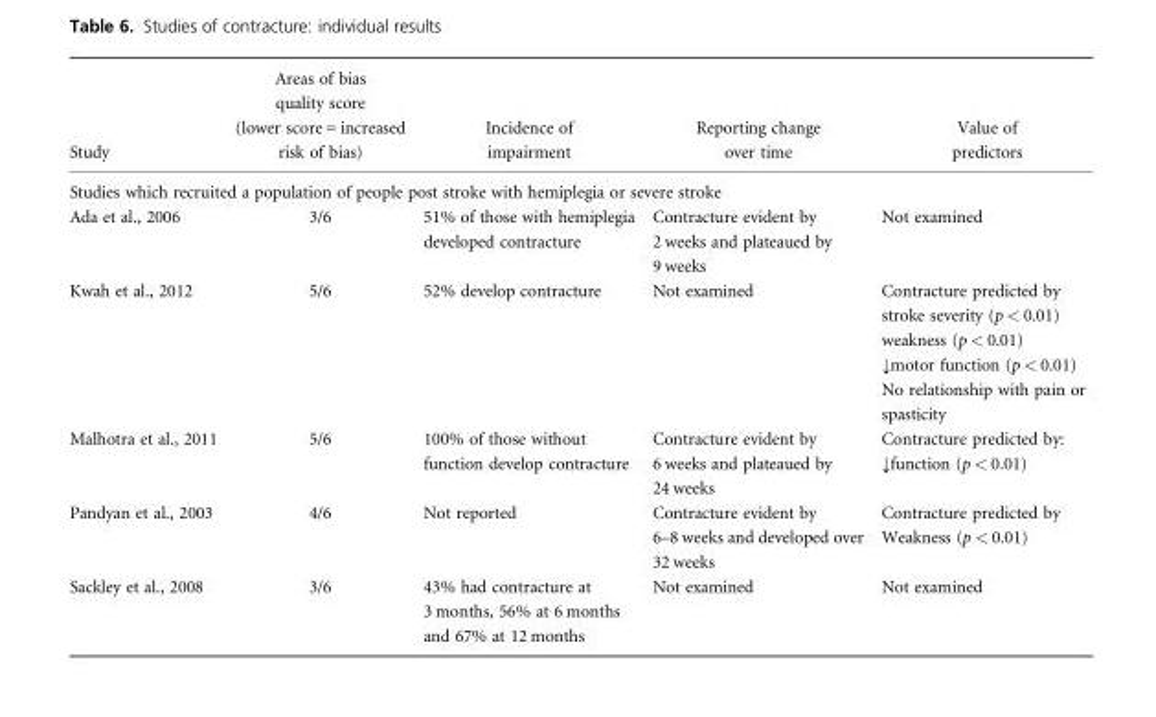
<table><thead><tr><td>Study</td><td>Areas of bias quality score (lower score = increased risk of bias)</td><td>Incidence of impairment</td><td>Reporting change over time</td><td>Value of predictors</td></tr></thead><tbody><tr><td colspan="5">Studies which recruited a population of people post stroke with hemiplegia or severe stroke</td></tr><tr><td>Ada et al., 2006</td><td>3/6</td><td>51% of those with hemiplegia developed contracture</td><td>Contracture evident by 2 weeks and plateaued by 9 weeks</td><td>Not examined</td></tr><tr><td rowspan="5">Kwah et al., 2012</td><td rowspan="5">5/6</td><td rowspan="5">52% develop contracture</td><td rowspan="5">Not examined</td><td>Contracture predicted by</td></tr><tr><td>stroke severity (p &lt; 0.01)</td></tr><tr><td>weakness (p &lt; 0.01)</td></tr><tr><td>↓motor function (p &lt; 0.01)</td></tr><tr><td>No relationship with pain or spasticity</td></tr><tr><td rowspan="2">Malhotra et al., 2011</td><td rowspan="2">5/6</td><td rowspan="2">100% of those without function develop contracture</td><td rowspan="2">Contracture evident by 6 weeks and plateaued by 24 weeks</td><td>Contracture predicted by:</td></tr><tr><td>↓function (p &lt; 0.01)</td></tr><tr><td rowspan="2">Pandyan et al., 2003</td><td rowspan="2">4/6</td><td rowspan="2">Not reported</td><td rowspan="2">Contracture evident by 6–8 weeks and developed over 32 weeks</td><td>Contracture predicted by</td></tr><tr><td>Weakness (p &lt; 0.01)</td></tr><tr><td>Sackley et al., 2008</td><td>3/6</td><td>43% had contracture at 3 months, 56% at 6 months and 67% at 12 months</td><td>Not examined</td><td>Not examined</td></tr></tbody></table>